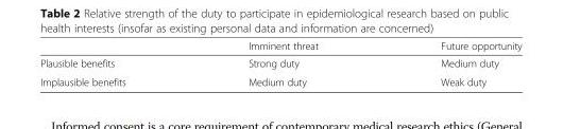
<table><thead><tr><td></td><td>Imminent threat</td><td>Future opportunity</td></tr></thead><tbody><tr><td>Plausible benefits</td><td>Strong duty</td><td>Medium duty</td></tr><tr><td>Implausible benefits</td><td>Medium duty</td><td>Weak duty</td></tr></tbody></table>